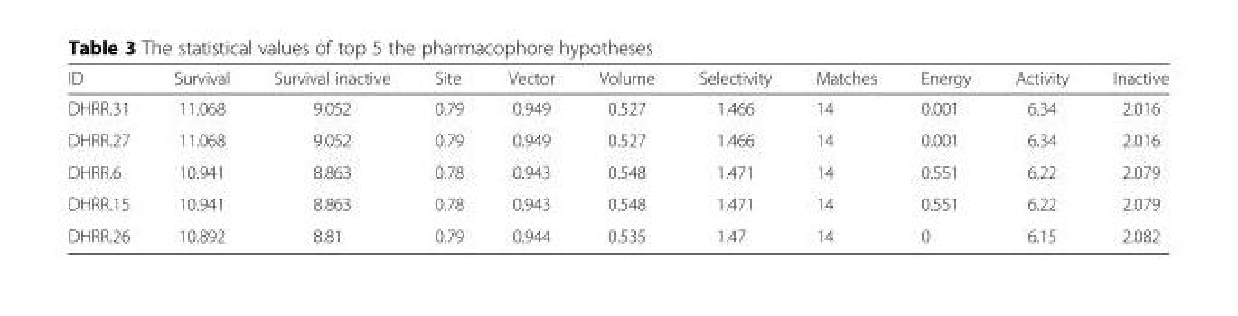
<table><thead><tr><td>ID</td><td>Survival</td><td>Survival inactive</td><td>Site</td><td>Vector</td><td>Volume</td><td>Selectivity</td><td>Matches</td><td>Energy</td><td>Activity</td><td>Inactive</td></tr></thead><tbody><tr><td>DHRR.31</td><td>11.068</td><td>9.052</td><td>0.79</td><td>0.949</td><td>0.527</td><td>1.466</td><td>14</td><td>0.001</td><td>6.34</td><td>2.016</td></tr><tr><td>DHRR.27</td><td>11.068</td><td>9.052</td><td>0.79</td><td>0.949</td><td>0.527</td><td>1.466</td><td>14</td><td>0.001</td><td>6.34</td><td>2.016</td></tr><tr><td>DHRR.6</td><td>10.941</td><td>8.863</td><td>0.78</td><td>0.943</td><td>0.548</td><td>1.471</td><td>14</td><td>0.551</td><td>6.22</td><td>2.079</td></tr><tr><td>DHRR.15</td><td>10.941</td><td>8.863</td><td>0.78</td><td>0.943</td><td>0.548</td><td>1.471</td><td>14</td><td>0.551</td><td>6.22</td><td>2.079</td></tr><tr><td>DHRR.26</td><td>10.892</td><td>8.81</td><td>0.79</td><td>0.944</td><td>0.535</td><td>1.47</td><td>14</td><td>0</td><td>6.15</td><td>2.082</td></tr></tbody></table>